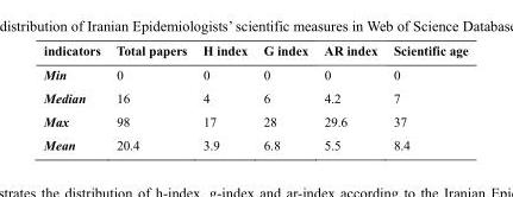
<table><thead><tr><td>indicators</td><td>Total papers</td><td>H index</td><td>G index</td><td>AR index</td><td>Scientific age</td></tr></thead><tbody><tr><td>Min</td><td>0</td><td>0</td><td>0</td><td>0</td><td>0</td></tr><tr><td>Median</td><td>16</td><td>4</td><td>6</td><td>4.2</td><td>7</td></tr><tr><td>Max</td><td>98</td><td>17</td><td>28</td><td>29.6</td><td>37</td></tr><tr><td>Mean</td><td>20.4</td><td>3.9</td><td>6.8</td><td>5.5</td><td>8.4</td></tr></tbody></table>